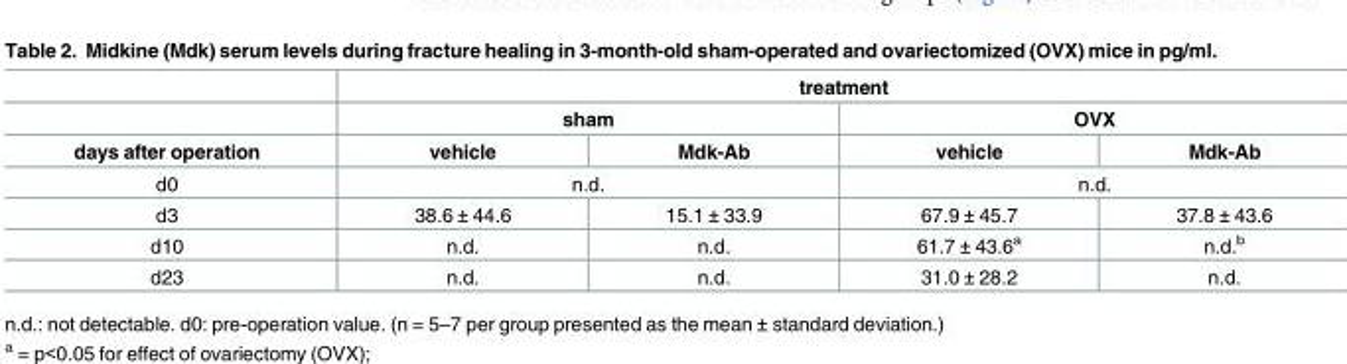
<table><thead><tr><td rowspan="3">days after operation</td><td colspan="4">treatment</td></tr><tr><td colspan="2">sham</td><td colspan="2">OVX</td></tr><tr><td>vehicle</td><td>Mdk-Ab</td><td>vehicle</td><td>Mdk-Ab</td></tr></thead><tbody><tr><td>d0</td><td colspan="2">n.d.</td><td colspan="2">n.d.</td></tr><tr><td>d3</td><td>38.6 ± 44.6</td><td>15.1 ± 33.9</td><td>67.9 ± 45.7</td><td>37.8 ± 43.6</td></tr><tr><td>d10</td><td>n.d.</td><td>n.d.</td><td>61.7 ± 43.6<sup>a</sup></td><td>n.d.<sup>b</sup></td></tr><tr><td>d23</td><td>n.d.</td><td>n.d.</td><td>31.0 ± 28.2</td><td>n.d.</td></tr></tbody></table>